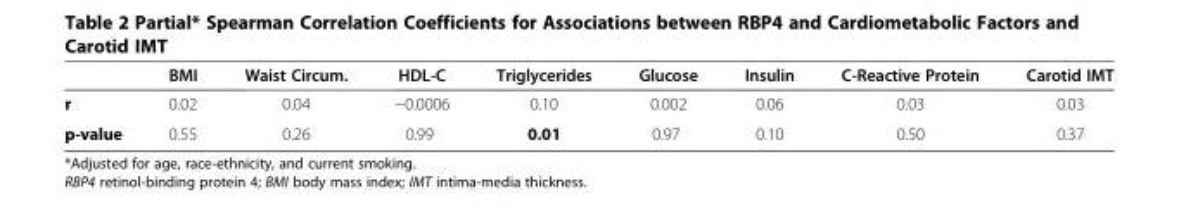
<table><thead><tr><td></td><td>BMI</td><td>Waist Circum.</td><td>HDL-C</td><td>Triglycerides</td><td>Glucose</td><td>Insulin</td><td>C-Reactive Protein</td><td>Carotid IMT</td></tr></thead><tbody><tr><td>r</td><td>0.02</td><td>0.04</td><td>−0.0006</td><td>0.10</td><td>0.002</td><td>0.06</td><td>0.03</td><td>0.03</td></tr><tr><td>p-value</td><td>0.55</td><td>0.26</td><td>0.99</td><td>0.01</td><td>0.97</td><td>0.10</td><td>0.50</td><td>0.37</td></tr></tbody></table>